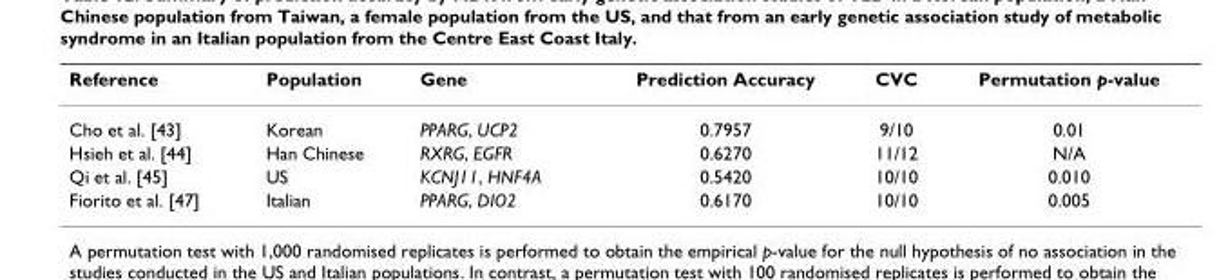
<table><thead><tr><td>Reference</td><td>Population</td><td>Gene</td><td>Prediction Accuracy</td><td>CVC</td><td>Permutation p-value</td></tr></thead><tbody><tr><td>Cho et al. [43]</td><td>Korean</td><td>PPARG, UCP2</td><td>0.7957</td><td>9/10</td><td>0.01</td></tr><tr><td>Hsieh et al. [44]</td><td>Han Chinese</td><td>RXRG, EGFR</td><td>0.6270</td><td>11/12</td><td>N/A</td></tr><tr><td>Qi et al. [45]</td><td>US</td><td>KCNJ11, HNF4A</td><td>0.5420</td><td>10/10</td><td>0.010</td></tr><tr><td>Fiorito et al. [47]</td><td>Italian</td><td>PPARG, DIO2</td><td>0.6170</td><td>10/10</td><td>0.005</td></tr></tbody></table>